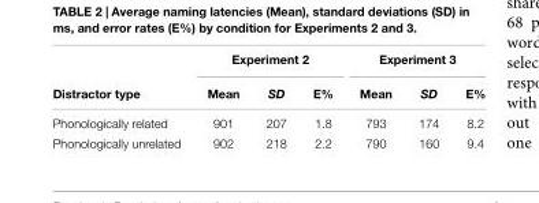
<table><thead><tr><td rowspan="2">Distractor type</td><td colspan="3">Experiment 2</td><td colspan="3">Experiment 3</td></tr><tr><td>Mean</td><td>SD</td><td>E%</td><td>Mean</td><td>SD</td><td>E%</td></tr></thead><tbody><tr><td>Phonologically related</td><td>901</td><td>207</td><td>1.8</td><td>793</td><td>174</td><td>8.2</td></tr><tr><td>Phonologically unrelated</td><td>902</td><td>218</td><td>2.2</td><td>790</td><td>160</td><td>9.4</td></tr></tbody></table>